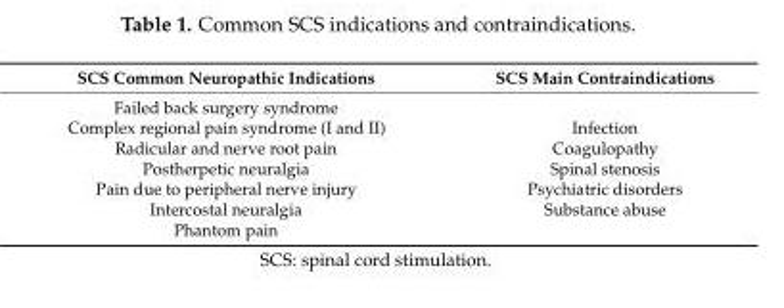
<table><thead><tr><td>SCS Common Neuropathic Indications</td><td>SCS Main Contraindications</td></tr></thead><tbody><tr><td>Failed back surgery syndrome Complex regional pain syndrome (I and II) Radicular and nerve root pain Postherpetic neuralgia Pain due to peripheral nerve injury Intercostal neuralgia Phantom pain</td><td>Infection Coagulopathy Spinal stenosis Psychiatric disorders Substance abuse</td></tr></tbody></table>